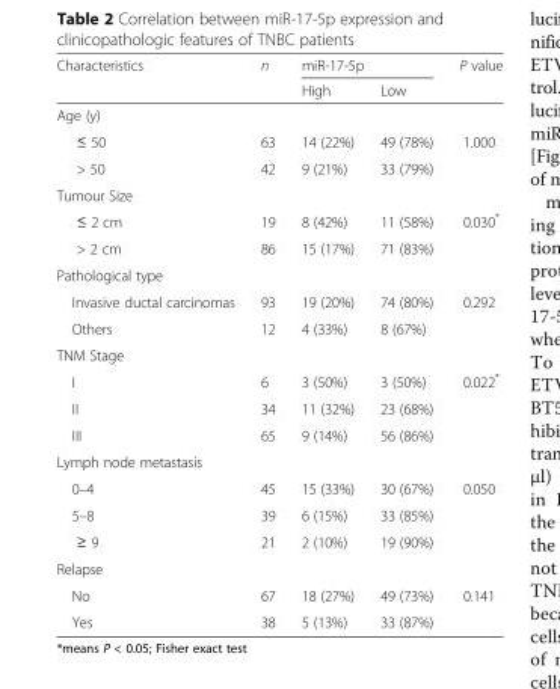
<table><thead><tr><td rowspan="2">Characteristics</td><td rowspan="2">n</td><td colspan="2">miR-17-5p</td><td rowspan="2">P value</td></tr><tr><td>High</td><td>Low</td></tr></thead><tbody><tr><td colspan="5">Age (y)</td></tr><tr><td>≤ 50</td><td>63</td><td>14 (22%)</td><td>49 (78%)</td><td rowspan="2">1.000</td></tr><tr><td>&gt; 50</td><td>42</td><td>9 (21%)</td><td>33 (79%)</td></tr><tr><td colspan="5">Tumour Size</td></tr><tr><td>≤ 2 cm</td><td>19</td><td>8 (42%)</td><td>11 (58%)</td><td rowspan="2">0.030*</td></tr><tr><td>&gt; 2 cm</td><td>86</td><td>15 (17%)</td><td>71 (83%)</td></tr><tr><td colspan="5">Pathological type</td></tr><tr><td>Invasive ductal carcinomas</td><td>93</td><td>19 (20%)</td><td>74 (80%)</td><td rowspan="2">0.292</td></tr><tr><td>Others</td><td>12</td><td>4 (33%)</td><td>8 (67%)</td></tr><tr><td colspan="5">TNM Stage</td></tr><tr><td>I</td><td>6</td><td>3 (50%)</td><td>3 (50%)</td><td rowspan="3">0.022*</td></tr><tr><td>II</td><td>34</td><td>11 (32%)</td><td>23 (68%)</td></tr><tr><td>III</td><td>65</td><td>9 (14%)</td><td>56 (86%)</td></tr><tr><td colspan="5">Lymph node metastasis</td></tr><tr><td>0–4</td><td>45</td><td>15 (33%)</td><td>30 (67%)</td><td rowspan="3">0.050</td></tr><tr><td>5–8</td><td>39</td><td>6 (15%)</td><td>33 (85%)</td></tr><tr><td>≥ 9</td><td>21</td><td>2 (10%)</td><td>19 (90%)</td></tr><tr><td colspan="5">Relapse</td></tr><tr><td>No</td><td>67</td><td>18 (27%)</td><td>49 (73%)</td><td rowspan="2">0.141</td></tr><tr><td>Yes</td><td>38</td><td>5 (13%)</td><td>33 (87%)</td></tr></tbody></table>